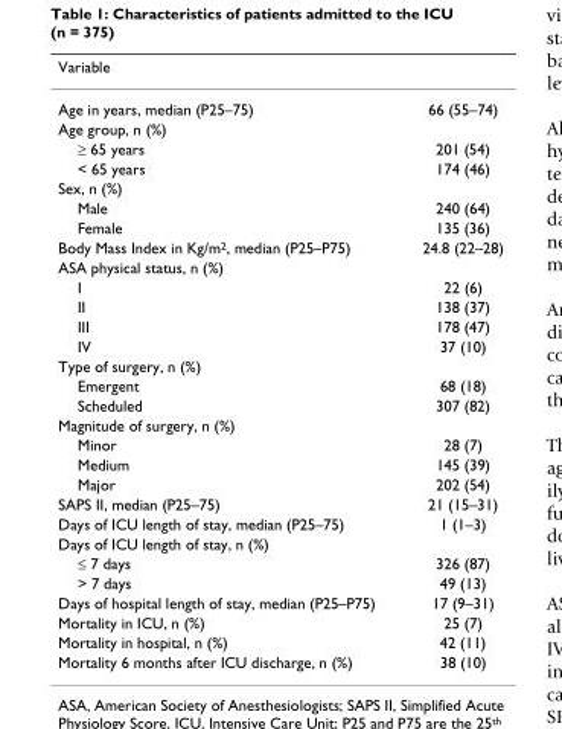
<table><thead><tr><td>Variable</td><td></td></tr></thead><tbody><tr><td>Age in years, median (P25–75)</td><td>66 (55–74)</td></tr><tr><td colspan="2">Age group, n (%)</td></tr><tr><td>≥ 65 years</td><td>201 (54)</td></tr><tr><td>&lt; 65 years</td><td>174 (46)</td></tr><tr><td colspan="2">Sex, n (%)</td></tr><tr><td>Male</td><td>240 (64)</td></tr><tr><td>Female</td><td>135 (36)</td></tr><tr><td>Body Mass Index in Kg/m<sup>2</sup>, median (P25–P75)</td><td>24.8 (22–28)</td></tr><tr><td colspan="2">ASA physical status, n (%)</td></tr><tr><td>I</td><td>22 (6)</td></tr><tr><td>II</td><td>138 (37)</td></tr><tr><td>III</td><td>178 (47)</td></tr><tr><td>IV</td><td>37 (10)</td></tr><tr><td colspan="2">Type of surgery, n (%)</td></tr><tr><td>Emergent</td><td>68 (18)</td></tr><tr><td>Scheduled</td><td>307 (82)</td></tr><tr><td colspan="2">Magnitude of surgery, n (%)</td></tr><tr><td>Minor</td><td>28 (7)</td></tr><tr><td>Medium</td><td>145 (39)</td></tr><tr><td>Major</td><td>202 (54)</td></tr><tr><td>SAPS II, median (P25–75)</td><td>21 (15–31)</td></tr><tr><td>Days of ICU length of stay, median (P25–75)</td><td>1 (1–3)</td></tr><tr><td colspan="2">Days of ICU length of stay, n (%)</td></tr><tr><td>≤ 7 days</td><td>326 (87)</td></tr><tr><td>&gt; 7 days</td><td>49 (13)</td></tr><tr><td>Days of hospital length of stay, median (P25–P75)</td><td>17 (9–31)</td></tr><tr><td>Mortality in ICU, n (%)</td><td>25 (7)</td></tr><tr><td>Mortality in hospital, n (%)</td><td>42 (11)</td></tr><tr><td>Mortality 6 months after ICU discharge, n (%)</td><td>38 (10)</td></tr></tbody></table>